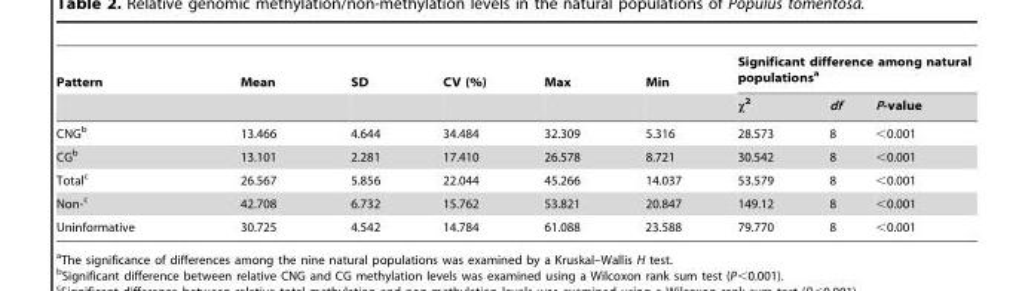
<table><thead><tr><td rowspan="2">Pattern</td><td rowspan="2">Mean</td><td rowspan="2">SD</td><td rowspan="2">CV (%)</td><td rowspan="2">Max</td><td rowspan="2">Min</td><td colspan="3">Significant difference among natural populations<sup>a</sup></td></tr><tr><td>x2</td><td>df</td><td>P-value</td></tr></thead><tbody><tr><td>CNG<sup>b</sup></td><td>13.466</td><td>4.644</td><td>34.484</td><td>32.309</td><td>5.316</td><td>28.573</td><td>8</td><td>&lt;0.001</td></tr><tr><td>CG<sup>b</sup></td><td>13.101</td><td>2.281</td><td>17.410</td><td>26.578</td><td>8.721</td><td>30.542</td><td>8</td><td>&lt;0.001</td></tr><tr><td>Total<sup>c</sup></td><td>26.567</td><td>5.856</td><td>22.044</td><td>45.266</td><td>14.037</td><td>53.579</td><td>8</td><td>&lt;0.001</td></tr><tr><td>Non-c</td><td>42.708</td><td>6.732</td><td>15.762</td><td>53.821</td><td>20.847</td><td>149.12</td><td>8</td><td>&lt;0.001</td></tr><tr><td>Uninformative</td><td>30.725</td><td>4.542</td><td>14.784</td><td>61.088</td><td>23.588</td><td>79.770</td><td>8</td><td>&lt;0.001</td></tr></tbody></table>